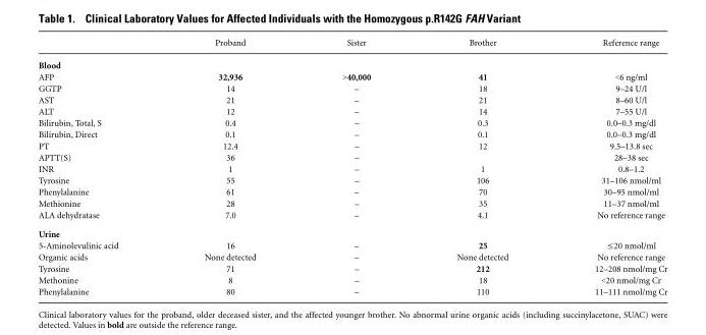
<table><thead><tr><td></td><td>Proband</td><td>Sister</td><td>Brother</td><td>Reference range</td></tr></thead><tbody><tr><td colspan="5">Blood</td></tr><tr><td>AFP</td><td>32,936</td><td>&gt;40,000</td><td>41</td><td>&lt;6 ng/ml</td></tr><tr><td>GGTP</td><td>14</td><td>–</td><td>18</td><td>9–24 U/l</td></tr><tr><td>AST</td><td>21</td><td>–</td><td>21</td><td>8–60 U/l</td></tr><tr><td>ALT</td><td>12</td><td>–</td><td>14</td><td>7–55 U/l</td></tr><tr><td>Bilirubin, Total, S</td><td>0.4</td><td>–</td><td>0.3</td><td>0.0–0.3 mg/dl</td></tr><tr><td>Bilirubin, Direct</td><td>0.1</td><td>–</td><td>0.1</td><td>0.0–0.3 mg/dl</td></tr><tr><td>PT</td><td>12.4</td><td>–</td><td>12</td><td>9.5–13.8 sec</td></tr><tr><td>APTT(S)</td><td>36</td><td>–</td><td></td><td>28–38 sec</td></tr><tr><td>INR</td><td>1</td><td>–</td><td>1</td><td>0.8–1.2</td></tr><tr><td>Tyrosine</td><td>55</td><td>–</td><td>106</td><td>31–106 nmol/ml</td></tr><tr><td>Phenylalanine</td><td>61</td><td>–</td><td>70</td><td>30–95 nmol/ml</td></tr><tr><td>Methionine</td><td>28</td><td>–</td><td>35</td><td>11–37 nmol/ml</td></tr><tr><td>ALA dehydratase</td><td>7.0</td><td>–</td><td>4.1</td><td>No reference range</td></tr><tr><td colspan="5">Urine</td></tr><tr><td>5-Aminolevulinic acid</td><td>16</td><td>–</td><td>25</td><td>≤20 nmol/ml</td></tr><tr><td>Organic acids</td><td>None detected</td><td>–</td><td>None detected</td><td>No reference range</td></tr><tr><td>Tyrosine</td><td>71</td><td>–</td><td>212</td><td>12–208 nmol/mg Cr</td></tr><tr><td>Methonine</td><td>8</td><td>–</td><td>18</td><td>&lt;20 nmol/mg Cr</td></tr><tr><td>Phenylalanine</td><td>80</td><td>–</td><td>110</td><td>11–111 nmol/mg Cr</td></tr></tbody></table>